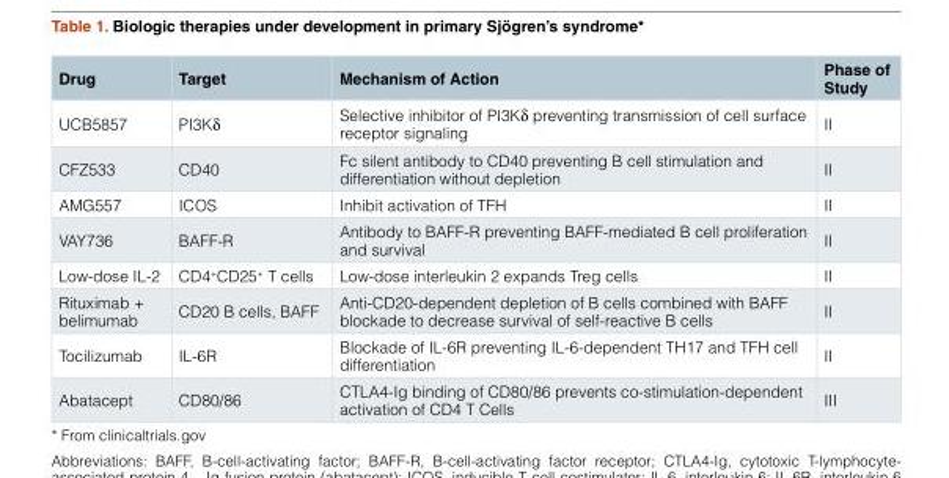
<table><thead><tr><td>Drug</td><td>Target</td><td>Mechanism of Action</td><td>Phase of Study</td></tr></thead><tbody><tr><td>UCB5857</td><td>PI3Kδ</td><td>Selective inhibitor of PI3Kδ preventing transmission of cell surface receptor signaling</td><td>II</td></tr><tr><td>CFZ533</td><td>CD40</td><td>Fc silent antibody to CD40 preventing B cell stimulation and differentiation without depletion</td><td>II</td></tr><tr><td>AMG557</td><td>ICOS</td><td>Inhibit activation of TFH</td><td>II</td></tr><tr><td>VAY736</td><td>BAFF-R</td><td>Antibody to BAFF-R preventing BAFF-mediated B cell proliferation and survival</td><td>II</td></tr><tr><td>Low-dose IL-2</td><td>CD4<sup>+</sup>CD25<sup>+</sup> T cells</td><td>Low-dose interleukin 2 expands Treg cells</td><td>II</td></tr><tr><td>Rituximab + belimumab</td><td>CD20 B cells, BAFF</td><td>Anti-CD20-dependent depletion of B cells combined with BAFF blockade to decrease survival of self-reactive B cells</td><td>II</td></tr><tr><td>Tocilizumab</td><td>IL-6R</td><td>Blockade of IL-6R preventing IL-6-dependent TH17 and TFH cell differentiation</td><td>II</td></tr><tr><td>Abatacept</td><td>CD80/86</td><td>CTLA4-Ig binding of CD80/86 prevents co-stimulation-dependent activation of CD4 T Cells</td><td>III</td></tr></tbody></table>